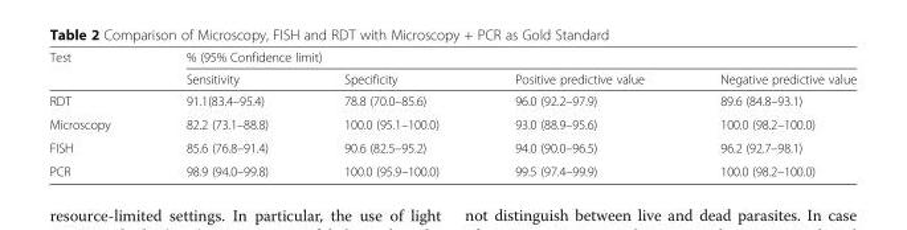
<table><thead><tr><td rowspan="2">Test</td><td colspan="4">% (95% Confidence limit)</td></tr><tr><td>Sensitivity</td><td>Specificity</td><td>Positive predictive value</td><td>Negative predictive value</td></tr></thead><tbody><tr><td>RDT</td><td>91.1(83.4–95.4)</td><td>78.8 (70.0–85.6)</td><td>96.0 (92.2–97.9)</td><td>89.6 (84.8–93.1)</td></tr><tr><td>Microscopy</td><td>82.2 (73.1–88.8)</td><td>100.0 (95.1–100.0)</td><td>93.0 (88.9–95.6)</td><td>100.0 (98.2–100.0)</td></tr><tr><td>FISH</td><td>85.6 (76.8–91.4)</td><td>90.6 (82.5–95.2)</td><td>94.0 (90.0–96.5)</td><td>96.2 (92.7–98.1)</td></tr><tr><td>PCR</td><td>98.9 (94.0–99.8)</td><td>100.0 (95.9–100.0)</td><td>99.5 (97.4–99.9)</td><td>100.0 (98.2–100.0)</td></tr></tbody></table>